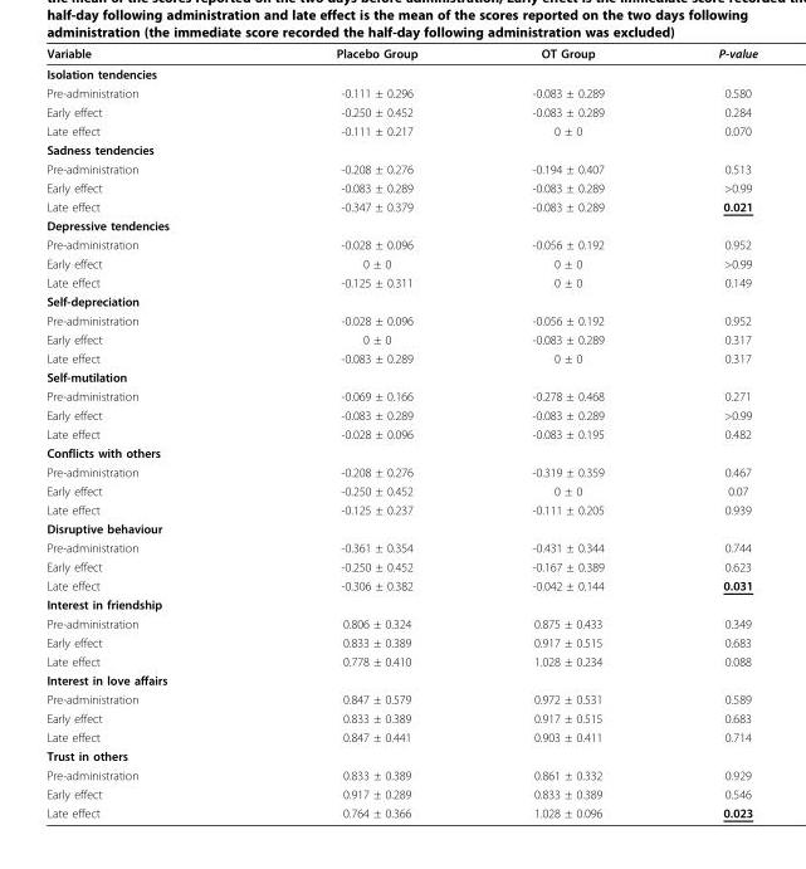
<table><thead><tr><td>Variable</td><td>Placebo Group</td><td>OT Group</td><td>P-value</td></tr></thead><tbody><tr><td colspan="4">Isolation tendencies</td></tr><tr><td>Pre-administration</td><td>-0.111 ± 0.296</td><td>-0.083 ± 0.289</td><td>0.580</td></tr><tr><td>Early effect</td><td>-0.250 ± 0.452</td><td>-0.083 ± 0.289</td><td>0.284</td></tr><tr><td>Late effect</td><td>-0.111 ± 0.217</td><td>0 ± 0</td><td>0.070</td></tr><tr><td colspan="4">Sadness tendencies</td></tr><tr><td>Pre-administration</td><td>-0.208 ± 0.276</td><td>-0.194 ± 0.407</td><td>0.513</td></tr><tr><td>Early effect</td><td>-0.083 ± 0.289</td><td>-0.083 ± 0.289</td><td>&gt;0.99</td></tr><tr><td>Late effect</td><td>-0.347 ± 0.379</td><td>-0.083 ± 0.289</td><td>0.021</td></tr><tr><td colspan="4">Depressive tendencies</td></tr><tr><td>Pre-administration</td><td>-0.028 ± 0.096</td><td>-0.056 ± 0.192</td><td>0.952</td></tr><tr><td>Early effect</td><td>0 ± 0</td><td>0 ± 0</td><td>&gt;0.99</td></tr><tr><td>Late effect</td><td>-0.125 ± 0.311</td><td>0 ± 0</td><td>0.149</td></tr><tr><td colspan="4">Self-depreciation</td></tr><tr><td>Pre-administration</td><td>-0.028 ± 0.096</td><td>-0.056 ± 0.192</td><td>0.952</td></tr><tr><td>Early effect</td><td>0 ± 0</td><td>-0.083 ± 0.289</td><td>0.317</td></tr><tr><td>Late effect</td><td>-0.083 ± 0.289</td><td>0 ± 0</td><td>0.317</td></tr><tr><td colspan="4">Self-mutilation</td></tr><tr><td>Pre-administration</td><td>-0.069 ± 0.166</td><td>-0.278 ± 0.468</td><td>0.271</td></tr><tr><td>Early effect</td><td>-0.083 ± 0.289</td><td>-0.083 ± 0.289</td><td>&gt;0.99</td></tr><tr><td>Late effect</td><td>-0.028 ± 0.096</td><td>-0.083 ± 0.195</td><td>0.482</td></tr><tr><td colspan="4">Conflicts with others</td></tr><tr><td>Pre-administration</td><td>-0.208 ± 0.276</td><td>-0.319 ± 0.359</td><td>0.467</td></tr><tr><td>Early effect</td><td>-0.250 ± 0.452</td><td>0 ± 0</td><td>0.07</td></tr><tr><td>Late effect</td><td>-0.125 ± 0.237</td><td>-0.111 ± 0.205</td><td>0.939</td></tr><tr><td colspan="4">Disruptive behaviour</td></tr><tr><td>Pre-administration</td><td>-0.361 ± 0.354</td><td>-0.431 ± 0.344</td><td>0.744</td></tr><tr><td>Early effect</td><td>-0.250 ± 0.452</td><td>-0.167 ± 0.389</td><td>0.623</td></tr><tr><td>Late effect</td><td>-0.306 ± 0.382</td><td>-0.042 ± 0.144</td><td>0.031</td></tr><tr><td colspan="4">Interest in friendship</td></tr><tr><td>Pre-administration</td><td>0.806 ± 0.324</td><td>0.875 ± 0.433</td><td>0.349</td></tr><tr><td>Early effect</td><td>0.833 ± 0.389</td><td>0.917 ± 0.515</td><td>0.683</td></tr><tr><td>Late effect</td><td>0.778 ± 0.410</td><td>1.028 ± 0.234</td><td>0.088</td></tr><tr><td colspan="4">Interest in love affairs</td></tr><tr><td>Pre-administration</td><td>0.847 ± 0.579</td><td>0.972 ± 0.531</td><td>0.589</td></tr><tr><td>Early effect</td><td>0.833 ± 0.389</td><td>0.917 ± 0.515</td><td>0.683</td></tr><tr><td>Late effect</td><td>0.847 ± 0.441</td><td>0.903 ± 0.411</td><td>0.714</td></tr><tr><td colspan="4">Trust in others</td></tr><tr><td>Pre-administration</td><td>0.833 ± 0.389</td><td>0.861 ± 0.332</td><td>0.929</td></tr><tr><td>Early effect</td><td>0.917 ± 0.289</td><td>0.833 ± 0.389</td><td>0.546</td></tr><tr><td>Late effect</td><td>0.764 ± 0.366</td><td>1.028 ± 0.096</td><td>0.023</td></tr></tbody></table>